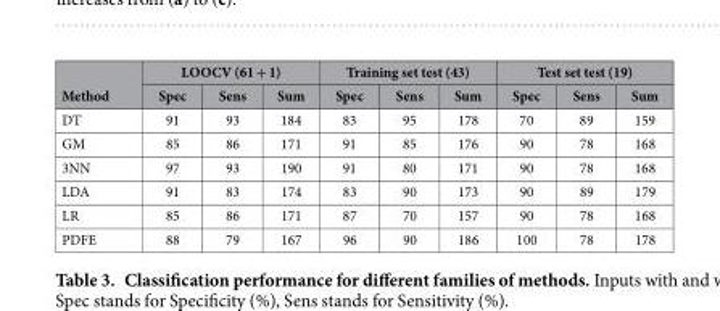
<table><thead><tr><td rowspan="2">Method</td><td colspan="3">LOOCV (61 + 1)</td><td colspan="3">Training set test (43)</td><td colspan="3">Test set test (19)</td></tr><tr><td>Spec</td><td>Sens</td><td>Sum</td><td>Spec</td><td>Sens</td><td>Sum</td><td>Spec</td><td>Sens</td><td>Sum</td></tr></thead><tbody><tr><td>DT</td><td>91</td><td>93</td><td>184</td><td>83</td><td>95</td><td>178</td><td>70</td><td>89</td><td>159</td></tr><tr><td>GM</td><td>85</td><td>86</td><td>171</td><td>91</td><td>85</td><td>176</td><td>90</td><td>78</td><td>168</td></tr><tr><td>3NN</td><td>97</td><td>93</td><td>190</td><td>91</td><td>80</td><td>171</td><td>90</td><td>78</td><td>168</td></tr><tr><td>LDA</td><td>91</td><td>83</td><td>174</td><td>83</td><td>90</td><td>173</td><td>90</td><td>89</td><td>179</td></tr><tr><td>LR</td><td>85</td><td>86</td><td>171</td><td>87</td><td>70</td><td>157</td><td>90</td><td>78</td><td>168</td></tr><tr><td>PDFE</td><td>88</td><td>79</td><td>167</td><td>96</td><td>90</td><td>186</td><td>100</td><td>78</td><td>178</td></tr></tbody></table>